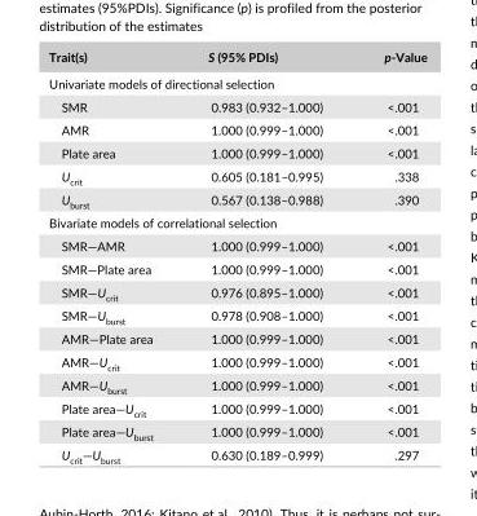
<table><thead><tr><td>Trait(s)</td><td>S (95% PDIs)</td><td>p- Value</td></tr></thead><tbody><tr><td colspan="3">Univariate models of directional selection</td></tr><tr><td>SMR</td><td>0.983 (0.932–1.000)</td><td>&lt;.001</td></tr><tr><td>AMR</td><td>1.000 (0.999–1.000)</td><td>&lt;.001</td></tr><tr><td>Plate area</td><td>1.000 (0.999–1.000)</td><td>&lt;.001</td></tr><tr><td>U<sub>crit</sub></td><td>0.605 (0.181–0.995)</td><td>.338</td></tr><tr><td>U<sub>burst</sub></td><td>0.567 (0.138–0.988)</td><td>.390</td></tr><tr><td colspan="3">Bivariate models of correlational selection</td></tr><tr><td>SMR—AMR</td><td>1.000 (0.999–1.000)</td><td>&lt;.001</td></tr><tr><td>SMR—Plate area</td><td>1.000 (0.999–1.000)</td><td>&lt;.001</td></tr><tr><td>SMR—U<sub>crit</sub></td><td>0.976 (0.895–1.000)</td><td>&lt;.001</td></tr><tr><td>SMR—U<sub>burst</sub></td><td>0.978 (0.908–1.000)</td><td>&lt;.001</td></tr><tr><td>AMR—Plate area</td><td>1.000 (0.999–1.000)</td><td>&lt;.001</td></tr><tr><td>AMR—U<sub>crit</sub></td><td>1.000 (0.999–1.000)</td><td>&lt;.001</td></tr><tr><td>AMR—U<sub>burst</sub></td><td>1.000 (0.999–1.000)</td><td>&lt;.001</td></tr><tr><td>Plate area—U<sub>crit</sub></td><td>1.000 (0.999–1.000)</td><td>&lt;.001</td></tr><tr><td>Plate area—U<sub>burst</sub></td><td>1.000 (0.999–1.000)</td><td>&lt;.001</td></tr><tr><td>U<sub>crit</sub>—U<sub>burst</sub></td><td>0.630 (0.189–0.999)</td><td>.297</td></tr></tbody></table>